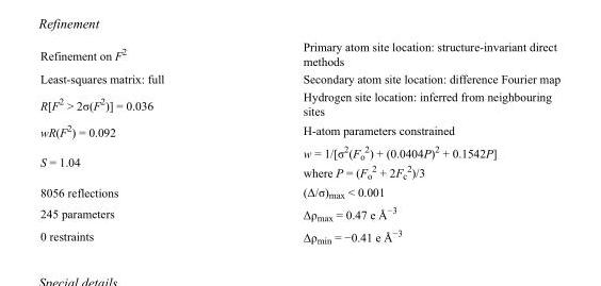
<table><tbody><tr><td>Refinement on F<sup>2</sup></td><td>Primary atom site location: structure-invariant direct methods</td></tr><tr><td>Least-squares matrix: full</td><td>Secondary atom site location: difference Fourier map</td></tr><tr><td>R[F<sup>2</sup> &gt; 2σ(F<sup>2</sup>)] = 0.036</td><td>Hydrogen site location: inferred from neighbouring sites</td></tr><tr><td>wR(F<sup>2</sup>) = 0.092</td><td>H-atom parameters constrained</td></tr><tr><td>S = 1.04</td><td>w = 1/[σ<sup>2</sup>(F<sub>o</sub> <sup>2</sup>) + (0.0404P)<sup>2</sup> + 0.1542P] where P = (F<sub>o</sub> <sup>2</sup> + 2F<sub>c</sub> <sup>2</sup>)/3</td></tr><tr><td>8056 reflections</td><td>(Δ/σ)<sub>max</sub> &lt; 0.001</td></tr><tr><td>245 parameters</td><td>Δρ<sub>max</sub> = 0.47 e Å<sup>−3</sup></td></tr><tr><td>0 restraints</td><td>Δρ<sub>min</sub> = −0.41 e Å<sup>−3</sup></td></tr></tbody></table>